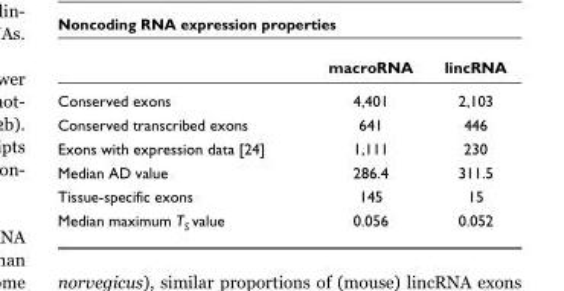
<table><thead><tr><td></td><td>macroRNA</td><td>lincRNA</td></tr></thead><tbody><tr><td>Conserved exons</td><td>4,401</td><td>2,103</td></tr><tr><td>Conserved transcribed exons</td><td>641</td><td>446</td></tr><tr><td>Exons with expression data [24]</td><td>1,111</td><td>230</td></tr><tr><td>Median AD value</td><td>286.4</td><td>311.5</td></tr><tr><td>Tissue-specific exons</td><td>145</td><td>15</td></tr><tr><td>Median maximum T<sub>S</sub> value</td><td>0.056</td><td>0.052</td></tr></tbody></table>